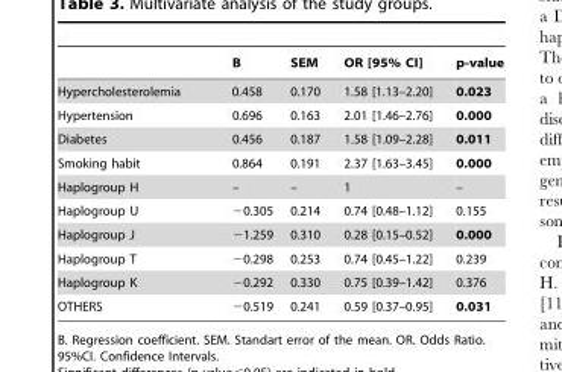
<table><thead><tr><td></td><td>B</td><td>SEM</td><td>OR [95% CI]</td><td>p-value</td></tr></thead><tbody><tr><td>Hypercholesterolemia</td><td>0.458</td><td>0.170</td><td>1.58 [1.13–2.20]</td><td>0.023</td></tr><tr><td>Hypertension</td><td>0.696</td><td>0.163</td><td>2.01 [1.46–2.76]</td><td>0.000</td></tr><tr><td>Diabetes</td><td>0.456</td><td>0.187</td><td>1.58 [1.09–2.28]</td><td>0.011</td></tr><tr><td>Smoking habit</td><td>0.864</td><td>0.191</td><td>2.37 [1.63–3.45]</td><td>0.000</td></tr><tr><td>Haplogroup H</td><td>–</td><td>–</td><td>1</td><td>–</td></tr><tr><td>Haplogroup U</td><td>−0.305</td><td>0.214</td><td>0.74 [0.48–1.12]</td><td>0.155</td></tr><tr><td>Haplogroup J</td><td>−1.259</td><td>0.310</td><td>0.28 [0.15–0.52]</td><td>0.000</td></tr><tr><td>Haplogroup T</td><td>−0.298</td><td>0.253</td><td>0.74 [0.45–1.22]</td><td>0.239</td></tr><tr><td>Haplogroup K</td><td>−0.292</td><td>0.330</td><td>0.75 [0.39–1.42]</td><td>0.376</td></tr><tr><td>OTHERS</td><td>−0.519</td><td>0.241</td><td>0.59 [0.37–0.95]</td><td>0.031</td></tr></tbody></table>